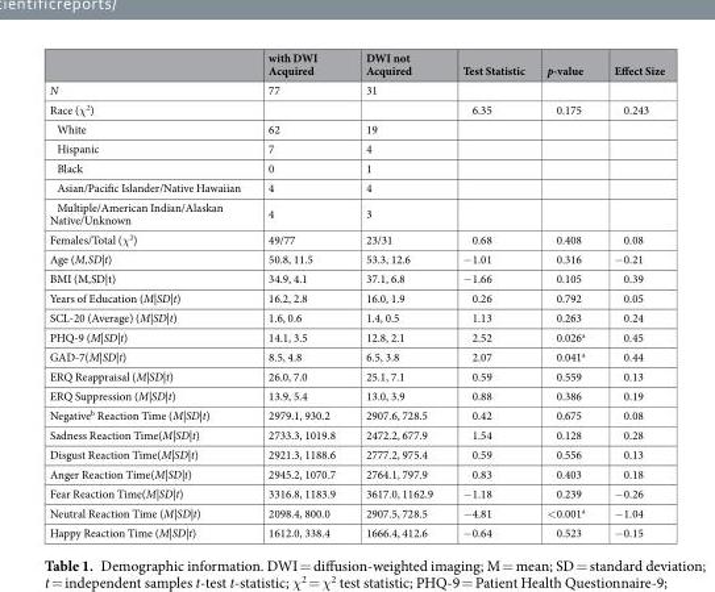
<table><thead><tr><td></td><td>with DWI Acquired</td><td>DWI not Acquired</td><td>Test Statistic</td><td>p-value</td><td>Effect Size</td></tr></thead><tbody><tr><td>N</td><td>77</td><td>31</td><td></td><td></td><td></td></tr><tr><td>Race (χ<sup>2</sup>)</td><td></td><td></td><td>6.35</td><td>0.175</td><td>0.243</td></tr><tr><td>White</td><td>62</td><td>19</td><td></td><td></td><td></td></tr><tr><td>Hispanic</td><td>7</td><td>4</td><td></td><td></td><td></td></tr><tr><td>Black</td><td>0</td><td>1</td><td></td><td></td><td></td></tr><tr><td>Asian/Pacific Islander/Native Hawaiian</td><td>4</td><td>4</td><td></td><td></td><td></td></tr><tr><td>Multiple/American Indian/Alaskan Native/Unknown</td><td>4</td><td>3</td><td></td><td></td><td></td></tr><tr><td>Females/Total (χ<sup>2</sup>)</td><td>49/77</td><td>23/31</td><td>0.68</td><td>0.408</td><td>0.08</td></tr><tr><td>Age (M,SD|t)</td><td>50.8, 11.5</td><td>53.3, 12.6</td><td>−1.01</td><td>0.316</td><td>−0.21</td></tr><tr><td>BMI (M,SD|t)</td><td>34.9, 4.1</td><td>37.1, 6.8</td><td>−1.66</td><td>0.105</td><td>0.39</td></tr><tr><td>Years of Education (M|SD|t)</td><td>16.2, 2.8</td><td>16.0, 1.9</td><td>0.26</td><td>0.792</td><td>0.05</td></tr><tr><td>SCL-20 (Average) (M|SD|t)</td><td>1.6, 0.6</td><td>1.4, 0.5</td><td>1.13</td><td>0.263</td><td>0.24</td></tr><tr><td>PHQ-9 (M|SD|t)</td><td>14.1, 3.5</td><td>12.8, 2.1</td><td>2.52</td><td>0.026<sup>a</sup></td><td>0.45</td></tr><tr><td>GAD-7(M|SD|t)</td><td>8.5, 4.8</td><td>6.5, 3.8</td><td>2.07</td><td>0.041<sup>a</sup></td><td>0.44</td></tr><tr><td>ERQ Reappraisal (M|SD|t)</td><td>26.0, 7.0</td><td>25.1, 7.1</td><td>0.59</td><td>0.559</td><td>0.13</td></tr><tr><td>ERQ Suppression (M|SD|t)</td><td>13.9, 5.4</td><td>13.0, 3.9</td><td>0.88</td><td>0.386</td><td>0.19</td></tr><tr><td>Negative<sup>b</sup> Reaction Time (M|SD|t)</td><td>2979.1, 930.2</td><td>2907.6, 728.5</td><td>0.42</td><td>0.675</td><td>0.08</td></tr><tr><td>Sadness Reaction Time(M|SD|t)</td><td>2733.3, 1019.8</td><td>2472.2, 677.9</td><td>1.54</td><td>0.128</td><td>0.28</td></tr><tr><td>Disgust Reaction Time(M|SD|t)</td><td>2921.3, 1188.6</td><td>2777.2, 975.4</td><td>0.59</td><td>0.556</td><td>0.13</td></tr><tr><td>Anger Reaction Time(M|SD|t)</td><td>2945.2, 1070.7</td><td>2764.1, 797.9</td><td>0.83</td><td>0.403</td><td>0.18</td></tr><tr><td>Fear Reaction Time(M|SD|t)</td><td>3316.8, 1183.9</td><td>3617.0, 1162.9</td><td>−1.18</td><td>0.239</td><td>−0.26</td></tr><tr><td>Neutral Reaction Time (M|SD|t)</td><td>2098.4, 800.0</td><td>2907.5, 728.5</td><td>−4.81</td><td>&lt;0.001<sup>a</sup></td><td>−1.04</td></tr><tr><td>Happy Reaction Time (M|SD|t)</td><td>1612.0, 338.4</td><td>1666.4, 412.6</td><td>−0.64</td><td>0.523</td><td>−0.15</td></tr></tbody></table>